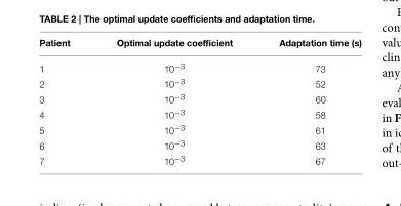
<table><thead><tr><td>Patient</td><td>Optimal update coefficient</td><td>Adaptation time (s)</td></tr></thead><tbody><tr><td>1</td><td>10<sup>−3</sup></td><td>73</td></tr><tr><td>2</td><td>10<sup>−3</sup></td><td>52</td></tr><tr><td>3</td><td>10<sup>−3</sup></td><td>60</td></tr><tr><td>4</td><td>10<sup>−3</sup></td><td>58</td></tr><tr><td>5</td><td>10<sup>−3</sup></td><td>61</td></tr><tr><td>6</td><td>10<sup>−3</sup></td><td>63</td></tr><tr><td>7</td><td>10<sup>−3</sup></td><td>67</td></tr></tbody></table>